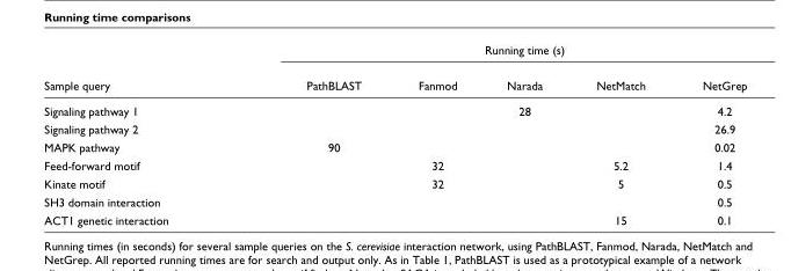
<table><thead><tr><td rowspan="2">Sample query</td><td colspan="5">Running time (s)</td></tr><tr><td>PathBLAST</td><td>Fanmod</td><td>Narada</td><td>NetMatch</td><td>NetGrep</td></tr></thead><tbody><tr><td>Signaling pathway 1</td><td></td><td></td><td>28</td><td></td><td>4.2</td></tr><tr><td>Signaling pathway 2</td><td></td><td></td><td></td><td></td><td>26.9</td></tr><tr><td>MAPK pathway</td><td>90</td><td></td><td></td><td></td><td>0.02</td></tr><tr><td>Feed-forward motif</td><td></td><td>32</td><td></td><td>5.2</td><td>1.4</td></tr><tr><td>Kinate motif</td><td></td><td>32</td><td></td><td>5</td><td>0.5</td></tr><tr><td>SH3 domain interaction</td><td></td><td></td><td></td><td></td><td>0.5</td></tr><tr><td>ACT1 genetic interaction</td><td></td><td></td><td></td><td>15</td><td>0.1</td></tr></tbody></table>